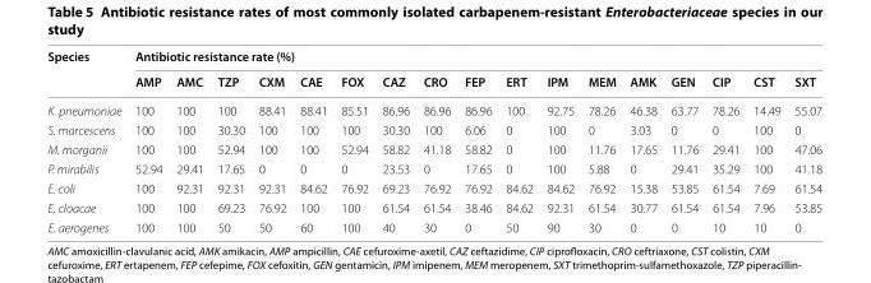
<table><thead><tr><td rowspan="2">Species</td><td colspan="17">Antibiotic resistance rate (%)</td></tr><tr><td>AMP</td><td>AMC</td><td>TZP</td><td>CXM</td><td>CAE</td><td>FOX</td><td>CAZ</td><td>CRO</td><td>FEP</td><td>ERT</td><td>IPM</td><td>MEM</td><td>AMK</td><td>GEN</td><td>CIP</td><td>CST</td><td>SXT</td></tr></thead><tbody><tr><td>K. pneumoniae</td><td>100</td><td>100</td><td>100</td><td>88.41</td><td>88.41</td><td>85.51</td><td>86.96</td><td>86.96</td><td>86.96</td><td>100</td><td>92.75</td><td>78.26</td><td>46.38</td><td>63.77</td><td>78.26</td><td>14.49</td><td>55.07</td></tr><tr><td>S. marcescens</td><td>100</td><td>100</td><td>30.30</td><td>100</td><td>100</td><td>100</td><td>30.30</td><td>100</td><td>6.06</td><td>0</td><td>100</td><td>0</td><td>3.03</td><td>0</td><td>0</td><td>100</td><td>0</td></tr><tr><td>M. morganii</td><td>100</td><td>100</td><td>52.94</td><td>100</td><td>100</td><td>52.94</td><td>58.82</td><td>41.18</td><td>58.82</td><td>0</td><td>100</td><td>11.76</td><td>17.65</td><td>11.76</td><td>29.41</td><td>100</td><td>47.06</td></tr><tr><td>P. mirabilis</td><td>52.94</td><td>29.41</td><td>17.65</td><td>0</td><td>0</td><td>0</td><td>23.53</td><td>0</td><td>17.65</td><td>0</td><td>100</td><td>5.88</td><td>0</td><td>29.41</td><td>35.29</td><td>100</td><td>41.18</td></tr><tr><td>E. coli</td><td>100</td><td>92.31</td><td>92.31</td><td>92.31</td><td>84.62</td><td>76.92</td><td>69.23</td><td>76.92</td><td>76.92</td><td>84.62</td><td>84.62</td><td>76.92</td><td>15.38</td><td>53.85</td><td>61.54</td><td>7.69</td><td>61.54</td></tr><tr><td>E. cloacae</td><td>100</td><td>100</td><td>69.23</td><td>76.92</td><td>100</td><td>100</td><td>61.54</td><td>61.54</td><td>38.46</td><td>84.62</td><td>92.31</td><td>61.54</td><td>30.77</td><td>61.54</td><td>61.54</td><td>7.96</td><td>53.85</td></tr><tr><td>E. aerogenes</td><td>100</td><td>100</td><td>50</td><td>50</td><td>60</td><td>100</td><td>40</td><td>30</td><td>0</td><td>50</td><td>90</td><td>30</td><td>0</td><td>0</td><td>10</td><td>10</td><td>0</td></tr></tbody></table>